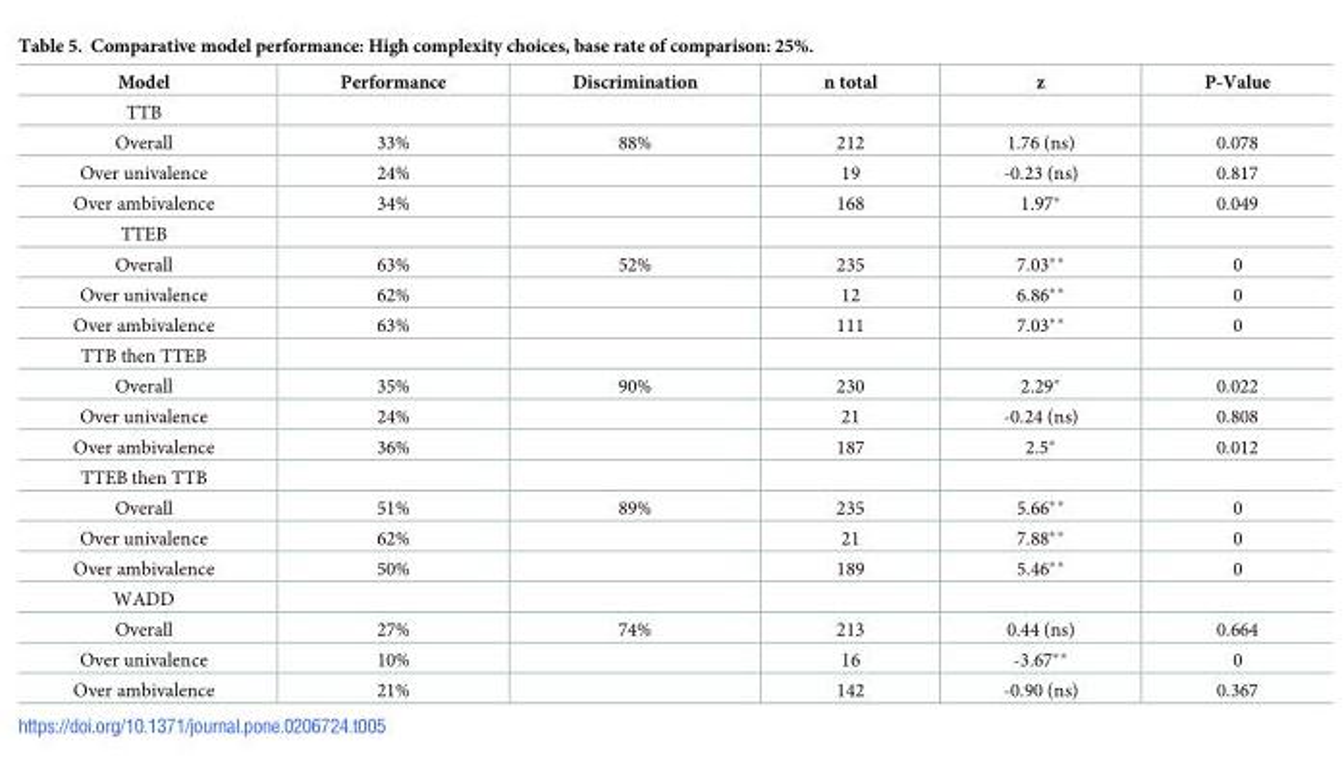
<table><thead><tr><td>Model</td><td>Performance</td><td>Discrimination</td><td>n total</td><td>z</td><td>P-Value</td></tr></thead><tbody><tr><td colspan="6">TTB</td></tr><tr><td>Overall</td><td>33%</td><td>88%</td><td>212</td><td>1.76 (ns)</td><td>0.078</td></tr><tr><td>Over univalence</td><td>24%</td><td></td><td>19</td><td>-0.23 (ns)</td><td>0.817</td></tr><tr><td>Over ambivalence</td><td>34%</td><td></td><td>168</td><td>1.97*</td><td>0.049</td></tr><tr><td colspan="6">TTEB</td></tr><tr><td>Overall</td><td>63%</td><td>52%</td><td>235</td><td>7.03**</td><td>0</td></tr><tr><td>Over univalence</td><td>62%</td><td></td><td>12</td><td>6.86**</td><td>0</td></tr><tr><td>Over ambivalence</td><td>63%</td><td></td><td>111</td><td>7.03**</td><td>0</td></tr><tr><td colspan="6">TTB then TTEB</td></tr><tr><td>Overall</td><td>35%</td><td>90%</td><td>230</td><td>2.29*</td><td>0.022</td></tr><tr><td>Over univalence</td><td>24%</td><td></td><td>21</td><td>-0.24 (ns)</td><td>0.808</td></tr><tr><td>Over ambivalence</td><td>36%</td><td></td><td>187</td><td>2.5*</td><td>0.012</td></tr><tr><td colspan="6">TTEB then TTB</td></tr><tr><td>Overall</td><td>51%</td><td>89%</td><td>235</td><td>5.66**</td><td>0</td></tr><tr><td>Over univalence</td><td>62%</td><td></td><td>21</td><td>7.88**</td><td>0</td></tr><tr><td>Over ambivalence</td><td>50%</td><td></td><td>189</td><td>5.46**</td><td>0</td></tr><tr><td colspan="6">WADD</td></tr><tr><td>Overall</td><td>27%</td><td>74%</td><td>213</td><td>0.44 (ns)</td><td>0.664</td></tr><tr><td>Over univalence</td><td>10%</td><td></td><td>16</td><td>-3.67**</td><td>0</td></tr><tr><td>Over ambivalence</td><td>21%</td><td></td><td>142</td><td>-0.90 (ns)</td><td>0.367</td></tr></tbody></table>